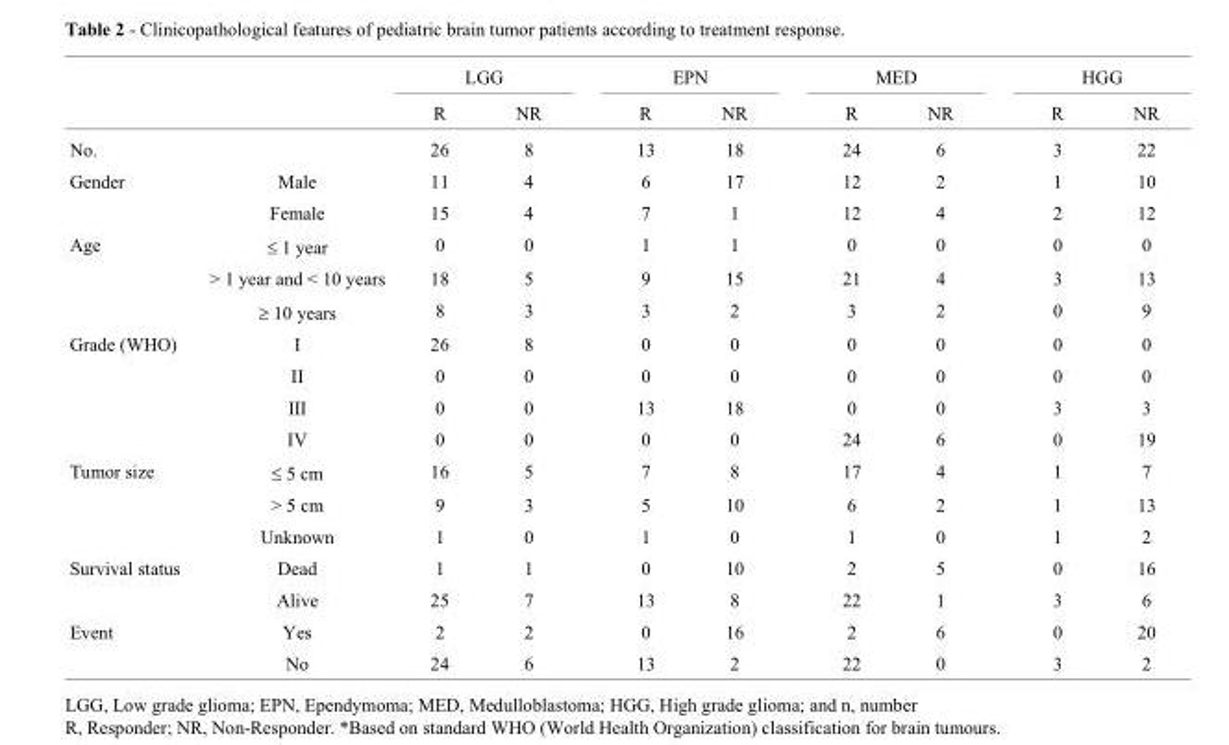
<table><thead><tr><td rowspan="2"></td><td rowspan="2"></td><td colspan="2">LGG</td><td colspan="2">EPN</td><td colspan="2">MED</td><td colspan="2">HGG</td></tr><tr><td>R</td><td>NR</td><td>R</td><td>NR</td><td>R</td><td>NR</td><td>R</td><td>NR</td></tr></thead><tbody><tr><td>No.</td><td></td><td>26</td><td>8</td><td>13</td><td>18</td><td>24</td><td>6</td><td>3</td><td>22</td></tr><tr><td rowspan="2">Gender</td><td>Male</td><td>11</td><td>4</td><td>6</td><td>17</td><td>12</td><td>2</td><td>1</td><td>10</td></tr><tr><td>Female</td><td>15</td><td>4</td><td>7</td><td>1</td><td>12</td><td>4</td><td>2</td><td>12</td></tr><tr><td rowspan="3">Age</td><td>≤ 1 year</td><td>0</td><td>0</td><td>1</td><td>1</td><td>0</td><td>0</td><td>0</td><td>0</td></tr><tr><td>&gt; 1 year and &lt; 10 years</td><td>18</td><td>5</td><td>9</td><td>15</td><td>21</td><td>4</td><td>3</td><td>13</td></tr><tr><td>≥ 10 years</td><td>8</td><td>3</td><td>3</td><td>2</td><td>3</td><td>2</td><td>0</td><td>9</td></tr><tr><td rowspan="4">Grade (WHO)</td><td>I</td><td>26</td><td>8</td><td>0</td><td>0</td><td>0</td><td>0</td><td>0</td><td>0</td></tr><tr><td>II</td><td>0</td><td>0</td><td>0</td><td>0</td><td>0</td><td>0</td><td>0</td><td>0</td></tr><tr><td>III</td><td>0</td><td>0</td><td>13</td><td>18</td><td>0</td><td>0</td><td>3</td><td>3</td></tr><tr><td>IV</td><td>0</td><td>0</td><td>0</td><td>0</td><td>24</td><td>6</td><td>0</td><td>19</td></tr><tr><td rowspan="3">Tumor size</td><td>≤ 5 cm</td><td>16</td><td>5</td><td>7</td><td>8</td><td>17</td><td>4</td><td>1</td><td>7</td></tr><tr><td>&gt; 5 cm</td><td>9</td><td>3</td><td>5</td><td>10</td><td>6</td><td>2</td><td>1</td><td>13</td></tr><tr><td>Unknown</td><td>1</td><td>0</td><td>1</td><td>0</td><td>1</td><td>0</td><td>1</td><td>2</td></tr><tr><td rowspan="2">Survival status</td><td>Dead</td><td>1</td><td>1</td><td>0</td><td>10</td><td>2</td><td>5</td><td>0</td><td>16</td></tr><tr><td>Alive</td><td>25</td><td>7</td><td>13</td><td>8</td><td>22</td><td>1</td><td>3</td><td>6</td></tr><tr><td rowspan="2">Event</td><td>Yes</td><td>2</td><td>2</td><td>0</td><td>16</td><td>2</td><td>6</td><td>0</td><td>20</td></tr><tr><td>No</td><td>24</td><td>6</td><td>13</td><td>2</td><td>22</td><td>0</td><td>3</td><td>2</td></tr></tbody></table>